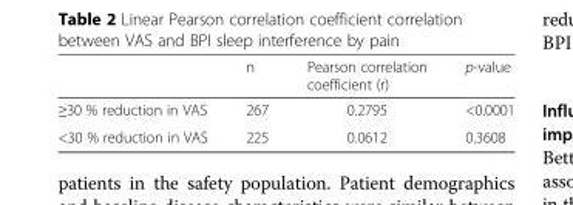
<table><thead><tr><td></td><td>n</td><td>Pearson correlation coefficient (r)</td><td>p-value</td></tr></thead><tbody><tr><td>≥30 % reduction in VAS</td><td>267</td><td>0.2795</td><td>&lt;0.0001</td></tr><tr><td>&lt;30 % reduction in VAS</td><td>225</td><td>0.0612</td><td>0.3608</td></tr></tbody></table>